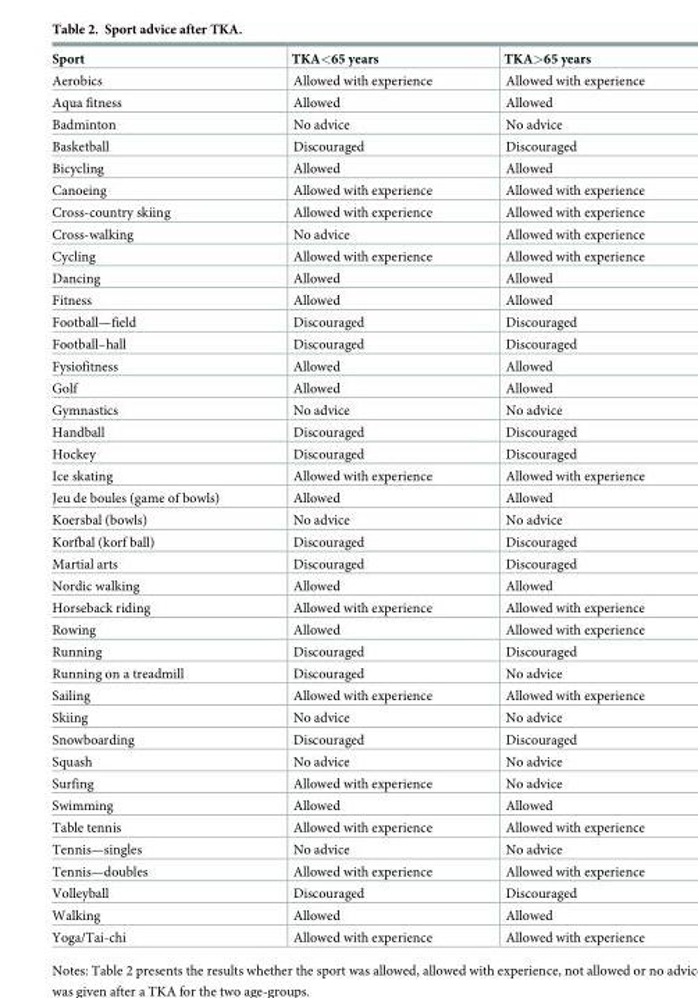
<table><thead><tr><td>Sport</td><td>TKA&lt;65 years</td><td>TKA&gt;65 years</td></tr></thead><tbody><tr><td>Aerobics</td><td>Allowed with experience</td><td>Allowed with experience</td></tr><tr><td>Aqua fitness</td><td>Allowed</td><td>Allowed</td></tr><tr><td>Badminton</td><td>No advice</td><td>No advice</td></tr><tr><td>Basketball</td><td>Discouraged</td><td>Discouraged</td></tr><tr><td>Bicycling</td><td>Allowed</td><td>Allowed</td></tr><tr><td>Canoeing</td><td>Allowed with experience</td><td>Allowed with experience</td></tr><tr><td>Cross-country skiing</td><td>Allowed with experience</td><td>Allowed with experience</td></tr><tr><td>Cross-walking</td><td>No advice</td><td>Allowed with experience</td></tr><tr><td>Cycling</td><td>Allowed with experience</td><td>Allowed with experience</td></tr><tr><td>Dancing</td><td>Allowed</td><td>Allowed</td></tr><tr><td>Fitness</td><td>Allowed</td><td>Allowed</td></tr><tr><td>Football—field</td><td>Discouraged</td><td>Discouraged</td></tr><tr><td>Football–hall</td><td>Discouraged</td><td>Discouraged</td></tr><tr><td>Fysiofitness</td><td>Allowed</td><td>Allowed</td></tr><tr><td>Golf</td><td>Allowed</td><td>Allowed</td></tr><tr><td>Gymnastics</td><td>No advice</td><td>No advice</td></tr><tr><td>Handball</td><td>Discouraged</td><td>Discouraged</td></tr><tr><td>Hockey</td><td>Discouraged</td><td>Discouraged</td></tr><tr><td>Ice skating</td><td>Allowed with experience</td><td>Allowed with experience</td></tr><tr><td>Jeu de boules (game of bowls)</td><td>Allowed</td><td>Allowed</td></tr><tr><td>Koersbal (bowls)</td><td>No advice</td><td>No advice</td></tr><tr><td>Korfbal (korf ball)</td><td>Discouraged</td><td>Discouraged</td></tr><tr><td>Martial arts</td><td>Discouraged</td><td>Discouraged</td></tr><tr><td>Nordic walking</td><td>Allowed</td><td>Allowed</td></tr><tr><td>Horseback riding</td><td>Allowed with experience</td><td>Allowed with experience</td></tr><tr><td>Rowing</td><td>Allowed</td><td>Allowed with experience</td></tr><tr><td>Running</td><td>Discouraged</td><td>Discouraged</td></tr><tr><td>Running on a treadmill</td><td>Discouraged</td><td>No advice</td></tr><tr><td>Sailing</td><td>Allowed with experience</td><td>Allowed with experience</td></tr><tr><td>Skiing</td><td>No advice</td><td>No advice</td></tr><tr><td>Snowboarding</td><td>Discouraged</td><td>Discouraged</td></tr><tr><td>Squash</td><td>No advice</td><td>No advice</td></tr><tr><td>Surfing</td><td>Allowed with experience</td><td>No advice</td></tr><tr><td>Swimming</td><td>Allowed</td><td>Allowed</td></tr><tr><td>Table tennis</td><td>Allowed with experience</td><td>Allowed with experience</td></tr><tr><td>Tennis—singles</td><td>No advice</td><td>No advice</td></tr><tr><td>Tennis—doubles</td><td>Allowed with experience</td><td>Allowed with experience</td></tr><tr><td>Volleyball</td><td>Discouraged</td><td>Discouraged</td></tr><tr><td>Walking</td><td>Allowed</td><td>Allowed</td></tr><tr><td>Yoga/Tai-chi</td><td>Allowed with experience</td><td>Allowed with experience</td></tr></tbody></table>